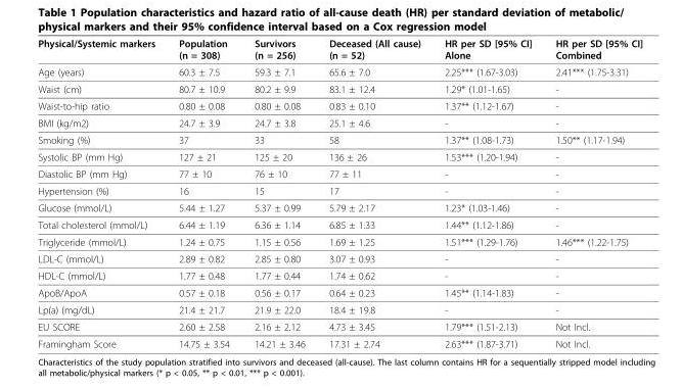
<table><thead><tr><td>Physical/Systemic markers</td><td>Population (n = 308)</td><td>Survivors (n = 256)</td><td>Deceased (All cause) (n = 52)</td><td>HR per SD [95% CI] Alone</td><td>HR per SD [95% CI] Combined</td></tr></thead><tbody><tr><td>Age (years)</td><td>60.3 ± 7.5</td><td>59.3 ± 7.1</td><td>65.6 ± 7.0</td><td>2.25*** (1.67-3.03)</td><td>2.41*** (1.75-3.31)</td></tr><tr><td>Waist (cm)</td><td>80.7 ± 10.9</td><td>80.2 ± 9.9</td><td>83.1 ± 12.4</td><td>1.29* (1.01-1.65)</td><td>-</td></tr><tr><td>Waist-to-hip ratio</td><td>0.80 ± 0.08</td><td>0.80 ± 0.08</td><td>0.83 ± 0.10</td><td>1.37** (1.12-1.67)</td><td>-</td></tr><tr><td>BMI (kg/m2)</td><td>24.7 ± 3.9</td><td>24.7 ± 3.8</td><td>25.1 ± 4.6</td><td>-</td><td>-</td></tr><tr><td>Smoking (%)</td><td>37</td><td>33</td><td>58</td><td>1.37** (1.08-1.73)</td><td>1.50** (1.17-1.94)</td></tr><tr><td>Systolic BP (mm Hg)</td><td>127 ± 21</td><td>125 ± 20</td><td>136 ± 26</td><td>1.53*** (1.20-1.94)</td><td>-</td></tr><tr><td>Diastolic BP (mm Hg)</td><td>77 ± 10</td><td>76 ± 10</td><td>77 ± 11</td><td>-</td><td>-</td></tr><tr><td>Hypertension (%)</td><td>16</td><td>15</td><td>17</td><td>-</td><td>-</td></tr><tr><td>Glucose (mmol/L)</td><td>5.44 ± 1.27</td><td>5.37 ± 0.99</td><td>5.79 ± 2.17</td><td>1.23* (1.03-1.46)</td><td>-</td></tr><tr><td>Total cholesterol (mmol/L)</td><td>6.44 ± 1.19</td><td>6.36 ± 1.14</td><td>6.85 ± 1.33</td><td>1.44** (1.12-1.86)</td><td>-</td></tr><tr><td>Triglyceride (mmol/L)</td><td>1.24 ± 0.75</td><td>1.15 ± 0.56</td><td>1.69 ± 1.25</td><td>1.51*** (1.29-1.76)</td><td>1.46*** (1.22-1.75)</td></tr><tr><td>LDL-C (mmol/L)</td><td>2.89 ± 0.82</td><td>2.85 ± 0.80</td><td>3.07 ± 0.93</td><td>-</td><td>-</td></tr><tr><td>HDL-C (mmol/L)</td><td>1.77 ± 0.48</td><td>1.77 ± 0.44</td><td>1.74 ± 0.62</td><td>-</td><td>-</td></tr><tr><td>ApoB/ApoA</td><td>0.57 ± 0.18</td><td>0.56 ± 0.17</td><td>0.64 ± 0.23</td><td>1.45** (1.14-1.83)</td><td>-</td></tr><tr><td>Lp(a) (mg/dL)</td><td>21.4 ± 21.7</td><td>21.9 ± 22.0</td><td>18.4 ± 19.8</td><td>-</td><td>-</td></tr><tr><td>EU SCORE</td><td>2.60 ± 2.58</td><td>2.16 ± 2.12</td><td>4.73 ± 3.45</td><td>1.79*** (1.51-2.13)</td><td>Not Incl.</td></tr><tr><td>Framingham Score</td><td>14.75 ± 3.54</td><td>14.21 ± 3.46</td><td>17.31 ± 2.74</td><td>2.63*** (1.87-3.71)</td><td>Not Incl.</td></tr></tbody></table>